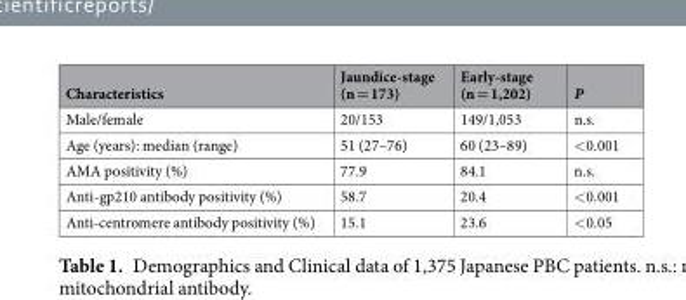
<table><thead><tr><td>Characteristics</td><td>Jaundice-stage (n = 173)</td><td>Early-stage (n = 1,202)</td><td>P</td></tr></thead><tbody><tr><td>Male/female</td><td>20/153</td><td>149/1,053</td><td>n.s.</td></tr><tr><td>Age (years): median (range)</td><td>51 (27–76)</td><td>60 (23–89)</td><td>&lt;0.001</td></tr><tr><td>AMA positivity (%)</td><td>77.9</td><td>84.1</td><td>n.s.</td></tr><tr><td>Anti-gp210 antibody positivity (%)</td><td>58.7</td><td>20.4</td><td>&lt;0.001</td></tr><tr><td>Anti-centromere antibody positivity (%)</td><td>15.1</td><td>23.6</td><td>&lt;0.05</td></tr></tbody></table>